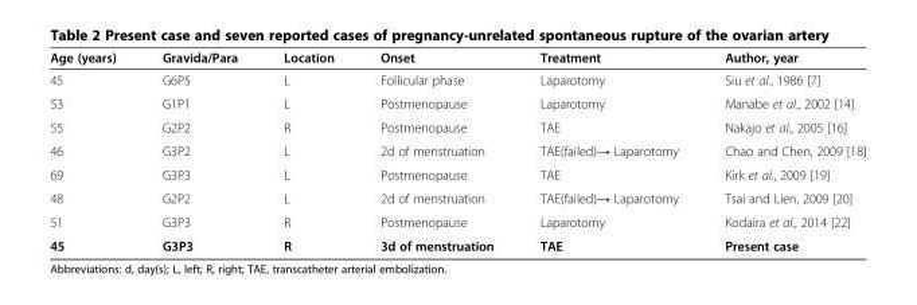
<table><thead><tr><td>Age (years)</td><td>Gravida/Para</td><td>Location</td><td>Onset</td><td>Treatment</td><td>Author, year</td></tr></thead><tbody><tr><td>45</td><td>G6P5</td><td>L</td><td>Follicular phase</td><td>Laparotomy</td><td>Siu et al., 1986 [7]</td></tr><tr><td>53</td><td>G1P1</td><td>L</td><td>Postmenopause</td><td>Laparotomy</td><td>Manabe et al., 2002 [14]</td></tr><tr><td>55</td><td>G2P2</td><td>R</td><td>Postmenopause</td><td>TAE</td><td>Nakajo et al., 2005 [16]</td></tr><tr><td>46</td><td>G3P2</td><td>L</td><td>2d of menstruation</td><td>TAE(failed)→ Laparotomy</td><td>Chao and Chen, 2009 [18]</td></tr><tr><td>69</td><td>G3P3</td><td>L</td><td>Postmenopause</td><td>TAE</td><td>Kirk et al., 2009 [19]</td></tr><tr><td>48</td><td>G2P2</td><td>L</td><td>2d of menstruation</td><td>TAE(failed)→ Laparotomy</td><td>Tsai and Lien, 2009 [20]</td></tr><tr><td>51</td><td>G3P3</td><td>R</td><td>Postmenopause</td><td>Laparotomy</td><td>Kodaira et al., 2014 [22]</td></tr><tr><td>45</td><td>G3P3</td><td>R</td><td>3d of menstruation</td><td>TAE</td><td>Present case</td></tr></tbody></table>